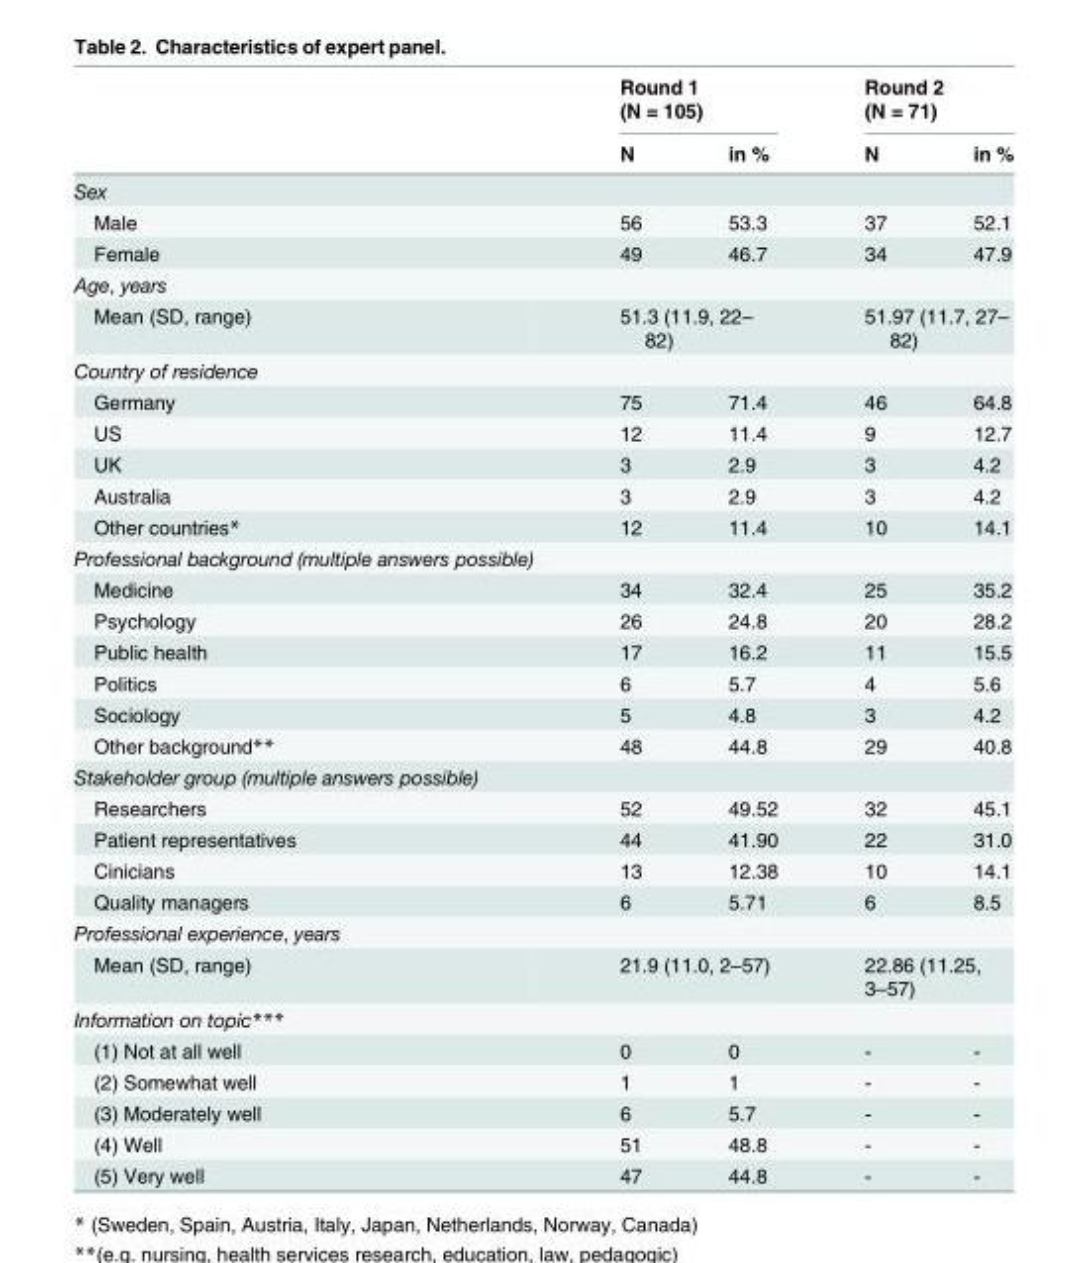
<table><thead><tr><td rowspan="2"></td><td colspan="2">Round 1 (N = 105)</td><td colspan="2">Round 2 (N = 71)</td></tr><tr><td>N</td><td>in %</td><td>N</td><td>in %</td></tr></thead><tbody><tr><td colspan="5">Sex</td></tr><tr><td>Male</td><td>56</td><td>53.3</td><td>37</td><td>52.1</td></tr><tr><td>Female</td><td>49</td><td>46.7</td><td>34</td><td>47.9</td></tr><tr><td colspan="5">Age, years</td></tr><tr><td>Mean (SD, range)</td><td colspan="2">51.3 (11.9, 22– 82)</td><td colspan="2">51.97 (11.7, 27– 82)</td></tr><tr><td colspan="5">Country of residence</td></tr><tr><td>Germany</td><td>75</td><td>71.4</td><td>46</td><td>64.8</td></tr><tr><td>US</td><td>12</td><td>11.4</td><td>9</td><td>12.7</td></tr><tr><td>UK</td><td>3</td><td>2.9</td><td>3</td><td>4.2</td></tr><tr><td>Australia</td><td>3</td><td>2.9</td><td>3</td><td>4.2</td></tr><tr><td>Other countries*</td><td>12</td><td>11.4</td><td>10</td><td>14.1</td></tr><tr><td colspan="5">Professional background (multiple answers possible)</td></tr><tr><td>Medicine</td><td>34</td><td>32.4</td><td>25</td><td>35.2</td></tr><tr><td>Psychology</td><td>26</td><td>24.8</td><td>20</td><td>28.2</td></tr><tr><td>Public health</td><td>17</td><td>16.2</td><td>11</td><td>15.5</td></tr><tr><td>Politics</td><td>6</td><td>5.7</td><td>4</td><td>5.6</td></tr><tr><td>Sociology</td><td>5</td><td>4.8</td><td>3</td><td>4.2</td></tr><tr><td>Other background**</td><td>48</td><td>44.8</td><td>29</td><td>40.8</td></tr><tr><td colspan="5">Stakeholder group (multiple answers possible)</td></tr><tr><td>Researchers</td><td>52</td><td>49.52</td><td>32</td><td>45.1</td></tr><tr><td>Patient representatives</td><td>44</td><td>41.90</td><td>22</td><td>31.0</td></tr><tr><td>Cinicians</td><td>13</td><td>12.38</td><td>10</td><td>14.1</td></tr><tr><td>Quality managers</td><td>6</td><td>5.71</td><td>6</td><td>8.5</td></tr><tr><td colspan="5">Professional experience, years</td></tr><tr><td>Mean (SD, range)</td><td colspan="2">21.9 (11.0, 2–57)</td><td colspan="2">22.86 (11.25, 3–57)</td></tr><tr><td colspan="5">Information on topic***</td></tr><tr><td>(1) Not at all well</td><td>0</td><td>0</td><td>-</td><td>-</td></tr><tr><td>(2) Somewhat well</td><td>1</td><td>1</td><td>-</td><td>-</td></tr><tr><td>(3) Moderately well</td><td>6</td><td>5.7</td><td>-</td><td>-</td></tr><tr><td>(4) Well</td><td>51</td><td>48.8</td><td>-</td><td>-</td></tr><tr><td>(5) Very well</td><td>47</td><td>44.8</td><td>-</td><td>-</td></tr></tbody></table>